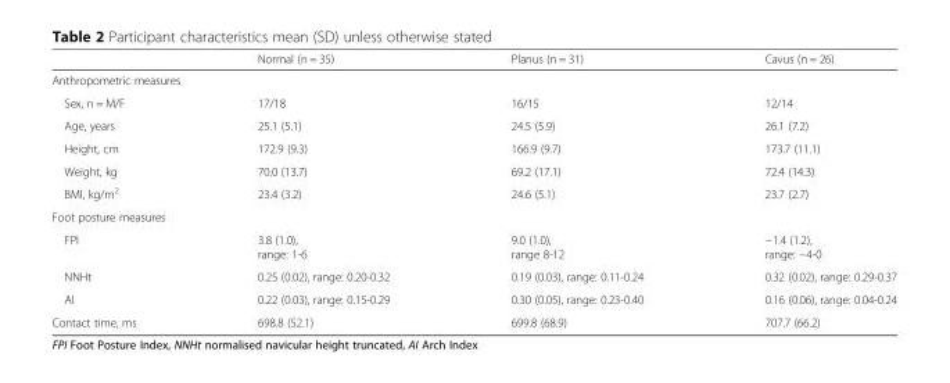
<table><thead><tr><td></td><td>Normal (n = 35)</td><td>Planus (n = 31)</td><td>Cavus (n = 26)</td></tr></thead><tbody><tr><td colspan="4">Anthropometric measures</td></tr><tr><td>Sex, n = M/F</td><td>17/18</td><td>16/15</td><td>12/14</td></tr><tr><td>Age, years</td><td>25.1 (5.1)</td><td>24.5 (5.9)</td><td>26.1 (7.2)</td></tr><tr><td>Height, cm</td><td>172.9 (9.3)</td><td>166.9 (9.7)</td><td>173.7 (11.1)</td></tr><tr><td>Weight, kg</td><td>70.0 (13.7)</td><td>69.2 (17.1)</td><td>72.4 (14.3)</td></tr><tr><td>BMI, kg/m<sup>2</sup></td><td>23.4 (3.2)</td><td>24.6 (5.1)</td><td>23.7 (2.7)</td></tr><tr><td colspan="4">Foot posture measures</td></tr><tr><td>FPI</td><td>3.8 (1.0), range: 1-6</td><td>9.0 (1.0), range 8-12</td><td>−1.4 (1.2), range: −4-0</td></tr><tr><td>NNHt</td><td>0.25 (0.02), range: 0.20-0.32</td><td>0.19 (0.03), range: 0.11-0.24</td><td>0.32 (0.02), range: 0.29-0.37</td></tr><tr><td>AI</td><td>0.22 (0.03), range: 0.15-0.29</td><td>0.30 (0.05), range: 0.23-0.40</td><td>0.16 (0.06), range: 0.04-0.24</td></tr><tr><td>Contact time, ms</td><td>698.8 (52.1)</td><td>699.8 (68.9)</td><td>707.7 (66.2)</td></tr></tbody></table>